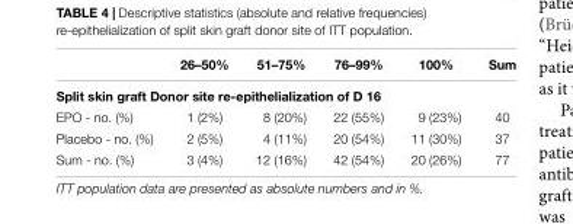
<table><thead><tr><td></td><td>26–50%</td><td>51–75%</td><td>76–99%</td><td>100%</td><td>Sum</td></tr></thead><tbody><tr><td colspan="6">Split skin graft Donor site re-epithelialization of D 16</td></tr><tr><td>EPO - no. (%)</td><td>1 (2%)</td><td>8 (20%)</td><td>22 (55%)</td><td>9 (23%)</td><td>40</td></tr><tr><td>Placebo - no. (%)</td><td>2 (5%)</td><td>4 (11%)</td><td>20 (54%)</td><td>11 (30%)</td><td>37</td></tr><tr><td>Sum - no. (%)</td><td>3 (4%)</td><td>12 (16%)</td><td>42 (54%)</td><td>20 (26%)</td><td>77</td></tr></tbody></table>